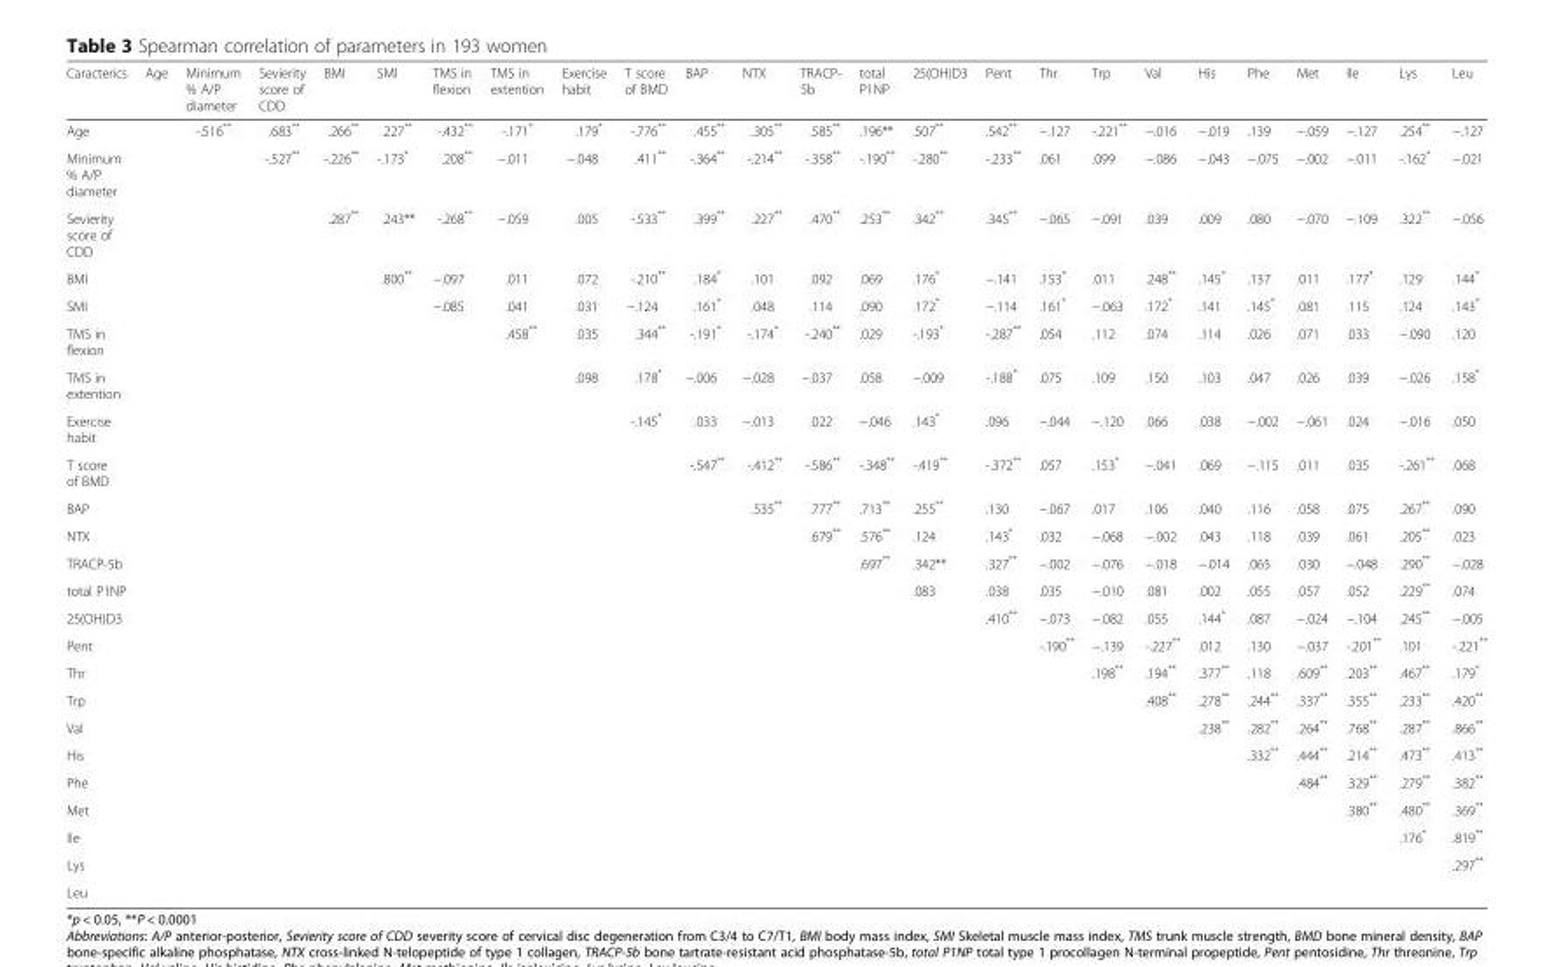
<table><thead><tr><td>Caracterics</td><td>Age</td><td>Minimum % A/P diameter</td><td>Sevierity score of CDD</td><td>BMI</td><td>SMI</td><td>TMS in flexion</td><td>TMS in extention</td><td>Exercise habit</td><td>T score of BMD</td><td>BAP</td><td>NTX</td><td>TRACP- 5b</td><td>total P1NP</td><td>25(OH)D3</td><td>Pent</td><td>Thr</td><td>Trp</td><td>Val</td><td>His</td><td>Phe</td><td>Met</td><td>Ile</td><td>Lys</td><td>Leu</td></tr></thead><tbody><tr><td>Age</td><td></td><td>-.516**</td><td>.683**</td><td>.266**</td><td>.227**</td><td>-.432**</td><td>-.171*</td><td>.179*</td><td>-.776**</td><td>.455**</td><td>.305**</td><td>.585**</td><td>.196**</td><td>.507**</td><td>.542**</td><td>−.127</td><td>-.221**</td><td>−.016</td><td>−.019</td><td>.139</td><td>−.059</td><td>−.127</td><td>.254**</td><td>−.127</td></tr><tr><td>Minimum % A/P diameter</td><td></td><td></td><td>-.527**</td><td>-.226**</td><td>-.173*</td><td>.208**</td><td>−.011</td><td>−.048</td><td>.411**</td><td>-.364**</td><td>-.214**</td><td>-.358**</td><td>-.190**</td><td>-.280**</td><td>-.233**</td><td>.061</td><td>.099</td><td>−.086</td><td>−.043</td><td>−.075</td><td>−.002</td><td>−.011</td><td>-.162*</td><td>−.021</td></tr><tr><td>Sevierity score of CDD</td><td></td><td></td><td></td><td>.287**</td><td>.243**</td><td>-.268**</td><td>−.059</td><td>.005</td><td>-.533**</td><td>.399**</td><td>.227**</td><td>.470**</td><td>.253**</td><td>.342**</td><td>.345**</td><td>−.065</td><td>−.091</td><td>.039</td><td>.009</td><td>.080</td><td>−.070</td><td>−.109</td><td>.322**</td><td>−.056</td></tr><tr><td>BMI</td><td></td><td></td><td></td><td></td><td>.800**</td><td>−.097</td><td>.011</td><td>.072</td><td>-.210**</td><td>.184*</td><td>.101</td><td>.092</td><td>.069</td><td>.176*</td><td>−.141</td><td>.153*</td><td>.011</td><td>.248**</td><td>.145*</td><td>.137</td><td>.011</td><td>.177*</td><td>.129</td><td>.144*</td></tr><tr><td>SMI</td><td></td><td></td><td></td><td></td><td></td><td>−.085</td><td>.041</td><td>.031</td><td>−.124</td><td>.161*</td><td>.048</td><td>.114</td><td>.090</td><td>.172*</td><td>−.114</td><td>.161*</td><td>−.063</td><td>.172*</td><td>.141</td><td>.145*</td><td>.081</td><td>.115</td><td>.124</td><td>.143*</td></tr><tr><td>TMS in flexion</td><td></td><td></td><td></td><td></td><td></td><td></td><td>.458**</td><td>.035</td><td>.344**</td><td>-.191*</td><td>-.174*</td><td>-.240**</td><td>.029</td><td>-.193*</td><td>-.287**</td><td>.054</td><td>.112</td><td>.074</td><td>.114</td><td>.026</td><td>.071</td><td>.033</td><td>−.090</td><td>.120</td></tr><tr><td>TMS in extention</td><td></td><td></td><td></td><td></td><td></td><td></td><td></td><td>.098</td><td>.178*</td><td>−.006</td><td>−.028</td><td>−.037</td><td>.058</td><td>−.009</td><td>-.188*</td><td>.075</td><td>.109</td><td>.150</td><td>.103</td><td>.047</td><td>.026</td><td>.039</td><td>−.026</td><td>.158*</td></tr><tr><td>Exercise habit</td><td></td><td></td><td></td><td></td><td></td><td></td><td></td><td></td><td>-.145*</td><td>.033</td><td>−.013</td><td>.022</td><td>−.046</td><td>.143*</td><td>.096</td><td>−.044</td><td>−.120</td><td>.066</td><td>.038</td><td>−.002</td><td>−.061</td><td>.024</td><td>−.016</td><td>.050</td></tr><tr><td>T score of BMD</td><td></td><td></td><td></td><td></td><td></td><td></td><td></td><td></td><td></td><td>-.547**</td><td>-.412**</td><td>-.586**</td><td>-.348**</td><td>-.419**</td><td>-.372**</td><td>.057</td><td>.153*</td><td>−.041</td><td>.069</td><td>−.115</td><td>.011</td><td>.035</td><td>-.261**</td><td>.068</td></tr><tr><td>BAP</td><td></td><td></td><td></td><td></td><td></td><td></td><td></td><td></td><td></td><td></td><td>.535**</td><td>.777**</td><td>.713**</td><td>.255**</td><td>.130</td><td>−.067</td><td>.017</td><td>.106</td><td>.040</td><td>.116</td><td>.058</td><td>.075</td><td>.267**</td><td>.090</td></tr><tr><td>NTX</td><td></td><td></td><td></td><td></td><td></td><td></td><td></td><td></td><td></td><td></td><td></td><td>.679**</td><td>.576**</td><td>.124</td><td>.143*</td><td>.032</td><td>−.068</td><td>−.002</td><td>.043</td><td>.118</td><td>.039</td><td>.061</td><td>.205**</td><td>.023</td></tr><tr><td>TRACP-5b</td><td></td><td></td><td></td><td></td><td></td><td></td><td></td><td></td><td></td><td></td><td></td><td></td><td>.697**</td><td>.342**</td><td>.327**</td><td>−.002</td><td>−.076</td><td>−.018</td><td>−.014</td><td>.065</td><td>.030</td><td>−.048</td><td>.290**</td><td>−.028</td></tr><tr><td>total P1NP</td><td></td><td></td><td></td><td></td><td></td><td></td><td></td><td></td><td></td><td></td><td></td><td></td><td></td><td>.083</td><td>.038</td><td>.035</td><td>−.010</td><td>.081</td><td>.002</td><td>.055</td><td>.057</td><td>.052</td><td>.229**</td><td>.074</td></tr><tr><td>25(OH)D3</td><td></td><td></td><td></td><td></td><td></td><td></td><td></td><td></td><td></td><td></td><td></td><td></td><td></td><td></td><td>.410**</td><td>−.073</td><td>−.082</td><td>.055</td><td>.144*</td><td>.087</td><td>−.024</td><td>−.104</td><td>.245**</td><td>−.005</td></tr><tr><td>Pent</td><td></td><td></td><td></td><td></td><td></td><td></td><td></td><td></td><td></td><td></td><td></td><td></td><td></td><td></td><td></td><td>-.190**</td><td>−.139</td><td>-.227**</td><td>.012</td><td>.130</td><td>−.037</td><td>-.201**</td><td>.101</td><td>-.221**</td></tr><tr><td>Thr</td><td></td><td></td><td></td><td></td><td></td><td></td><td></td><td></td><td></td><td></td><td></td><td></td><td></td><td></td><td></td><td></td><td>.198**</td><td>.194**</td><td>.377**</td><td>.118</td><td>.609**</td><td>.203**</td><td>.467**</td><td>.179*</td></tr><tr><td>Trp</td><td></td><td></td><td></td><td></td><td></td><td></td><td></td><td></td><td></td><td></td><td></td><td></td><td></td><td></td><td></td><td></td><td></td><td>.408**</td><td>.278**</td><td>.244**</td><td>.337**</td><td>.355**</td><td>.233**</td><td>.420**</td></tr><tr><td>Val</td><td></td><td></td><td></td><td></td><td></td><td></td><td></td><td></td><td></td><td></td><td></td><td></td><td></td><td></td><td></td><td></td><td></td><td></td><td>.238**</td><td>.282**</td><td>.264**</td><td>.768**</td><td>.287**</td><td>.866**</td></tr><tr><td>His</td><td></td><td></td><td></td><td></td><td></td><td></td><td></td><td></td><td></td><td></td><td></td><td></td><td></td><td></td><td></td><td></td><td></td><td></td><td></td><td>.332**</td><td>.444**</td><td>.214**</td><td>.473**</td><td>.413**</td></tr><tr><td>Phe</td><td></td><td></td><td></td><td></td><td></td><td></td><td></td><td></td><td></td><td></td><td></td><td></td><td></td><td></td><td></td><td></td><td></td><td></td><td></td><td></td><td>.484**</td><td>.329**</td><td>.279**</td><td>.382**</td></tr><tr><td>Met</td><td></td><td></td><td></td><td></td><td></td><td></td><td></td><td></td><td></td><td></td><td></td><td></td><td></td><td></td><td></td><td></td><td></td><td></td><td></td><td></td><td></td><td>.380**</td><td>.480**</td><td>.369**</td></tr><tr><td>Ile</td><td></td><td></td><td></td><td></td><td></td><td></td><td></td><td></td><td></td><td></td><td></td><td></td><td></td><td></td><td></td><td></td><td></td><td></td><td></td><td></td><td></td><td></td><td>.176*</td><td>.819**</td></tr><tr><td>Lys</td><td></td><td></td><td></td><td></td><td></td><td></td><td></td><td></td><td></td><td></td><td></td><td></td><td></td><td></td><td></td><td></td><td></td><td></td><td></td><td></td><td></td><td></td><td></td><td>.297**</td></tr><tr><td>Leu</td><td></td><td></td><td></td><td></td><td></td><td></td><td></td><td></td><td></td><td></td><td></td><td></td><td></td><td></td><td></td><td></td><td></td><td></td><td></td><td></td><td></td><td></td><td></td><td></td></tr></tbody></table>